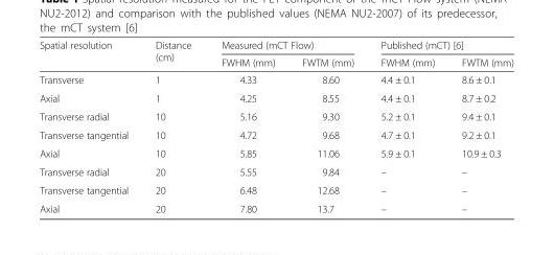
<table><thead><tr><td rowspan="2">Spatial resolution</td><td rowspan="2">Distance (cm)</td><td colspan="2">Measured (mCT Flow)</td><td colspan="2">Published (mCT) [6]</td></tr><tr><td>FWHM (mm)</td><td>FWTM (mm)</td><td>FWHM (mm)</td><td>FWTM (mm)</td></tr></thead><tbody><tr><td>Transverse</td><td>1</td><td>4.33</td><td>8.60</td><td>4.4 ± 0.1</td><td>8.6 ± 0.1</td></tr><tr><td>Axial</td><td>1</td><td>4.25</td><td>8.55</td><td>4.4 ± 0.1</td><td>8.7 ± 0.2</td></tr><tr><td>Transverse radial</td><td>10</td><td>5.16</td><td>9.30</td><td>5.2 ± 0.1</td><td>9.4 ± 0.1</td></tr><tr><td>Transverse tangential</td><td>10</td><td>4.72</td><td>9.68</td><td>4.7 ± 0.1</td><td>9.2 ± 0.1</td></tr><tr><td>Axial</td><td>10</td><td>5.85</td><td>11.06</td><td>5.9 ± 0.1</td><td>10.9 ± 0.3</td></tr><tr><td>Transverse radial</td><td>20</td><td>5.55</td><td>9.84</td><td>–</td><td>–</td></tr><tr><td>Transverse tangential</td><td>20</td><td>6.48</td><td>12.68</td><td>–</td><td>–</td></tr><tr><td>Axial</td><td>20</td><td>7.80</td><td>13.7</td><td>–</td><td>–</td></tr></tbody></table>